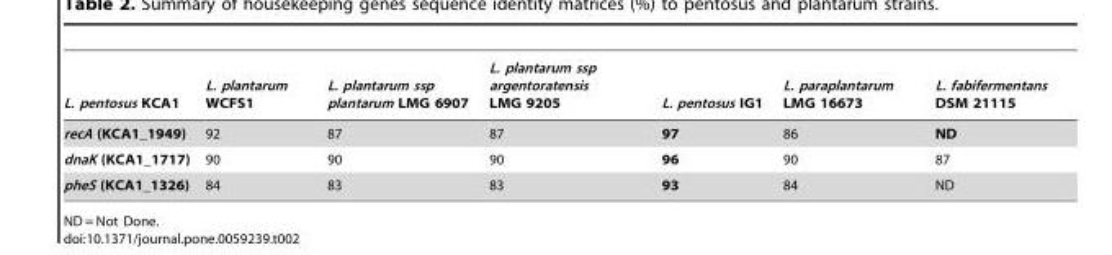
<table><thead><tr><td>L. pentosus KCA1</td><td>L. plantarum WCFS1</td><td>L. plantarum ssp plantarum LMG 6907</td><td>L. plantarum ssp argentoratensis LMG 9205</td><td>L. pentosus IG1</td><td>L. paraplantarum LMG 16673</td><td>L. fabifermentans DSM 21115</td></tr></thead><tbody><tr><td>recA (KCA1_1949)</td><td>92</td><td>87</td><td>87</td><td>97</td><td>86</td><td>ND</td></tr><tr><td>dnaK (KCA1_1717)</td><td>90</td><td>90</td><td>90</td><td>96</td><td>90</td><td>87</td></tr><tr><td>pheS (KCA1_1326)</td><td>84</td><td>83</td><td>83</td><td>93</td><td>84</td><td>ND</td></tr></tbody></table>